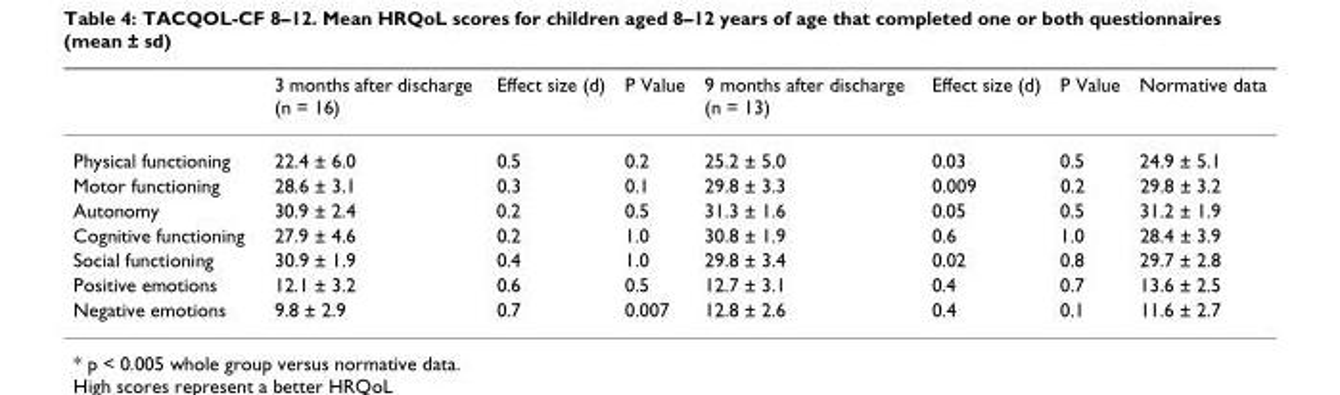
<table><thead><tr><td></td><td>3 months after discharge (n = 16)</td><td>Effect size (d)</td><td>P Value</td><td>9 months after discharge (n = 13)</td><td>Effect size (d)</td><td>P Value</td><td>Normative data</td></tr></thead><tbody><tr><td>Physical functioning</td><td>22.4 ± 6.0</td><td>0.5</td><td>0.2</td><td>25.2 ± 5.0</td><td>0.03</td><td>0.5</td><td>24.9 ± 5.1</td></tr><tr><td>Motor functioning</td><td>28.6 ± 3.1</td><td>0.3</td><td>0.1</td><td>29.8 ± 3.3</td><td>0.009</td><td>0.2</td><td>29.8 ± 3.2</td></tr><tr><td>Autonomy</td><td>30.9 ± 2.4</td><td>0.2</td><td>0.5</td><td>31.3 ± 1.6</td><td>0.05</td><td>0.5</td><td>31.2 ± 1.9</td></tr><tr><td>Cognitive functioning</td><td>27.9 ± 4.6</td><td>0.2</td><td>1.0</td><td>30.8 ± 1.9</td><td>0.6</td><td>1.0</td><td>28.4 ± 3.9</td></tr><tr><td>Social functioning</td><td>30.9 ± 1.9</td><td>0.4</td><td>1.0</td><td>29.8 ± 3.4</td><td>0.02</td><td>0.8</td><td>29.7 ± 2.8</td></tr><tr><td>Positive emotions</td><td>12.1 ± 3.2</td><td>0.6</td><td>0.5</td><td>12.7 ± 3.1</td><td>0.4</td><td>0.7</td><td>13.6 ± 2.5</td></tr><tr><td>Negative emotions</td><td>9.8 ± 2.9</td><td>0.7</td><td>0.007</td><td>12.8 ± 2.6</td><td>0.4</td><td>0.1</td><td>11.6 ± 2.7</td></tr></tbody></table>